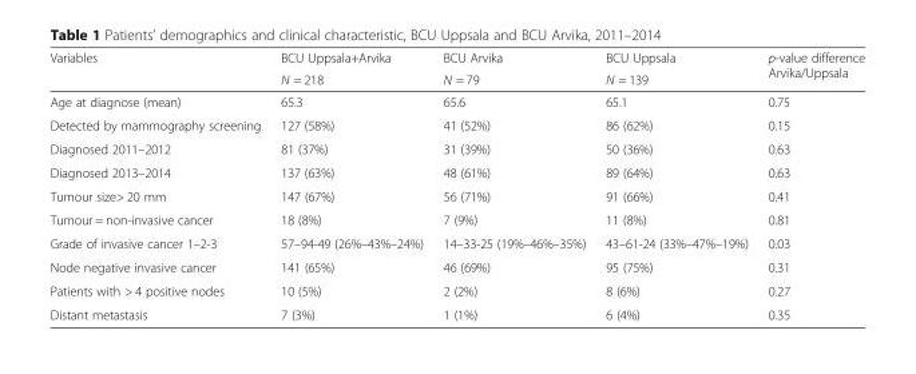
<table><thead><tr><td rowspan="2">Variables</td><td rowspan="2">BCU Uppsala+Arvika N = 218</td><td rowspan="2">BCU Arvika N = 79</td><td rowspan="2">BCU Uppsala N = 139</td><td rowspan="2">p-value difference Arvika/Uppsala</td></tr><tr></tr></thead><tbody><tr><td>Age at diagnose (mean)</td><td>65.3</td><td>65.6</td><td>65.1</td><td>0.75</td></tr><tr><td>Detected by mammography screening</td><td>127 (58%)</td><td>41 (52%)</td><td>86 (62%)</td><td>0.15</td></tr><tr><td>Diagnosed 2011–2012</td><td>81 (37%)</td><td>31 (39%)</td><td>50 (36%)</td><td>0.63</td></tr><tr><td>Diagnosed 2013–2014</td><td>137 (63%)</td><td>48 (61%)</td><td>89 (64%)</td><td>0.63</td></tr><tr><td>Tumour size&gt; 20 mm</td><td>147 (67%)</td><td>56 (71%)</td><td>91 (66%)</td><td>0.41</td></tr><tr><td>Tumour = non-invasive cancer</td><td>18 (8%)</td><td>7 (9%)</td><td>11 (8%)</td><td>0.81</td></tr><tr><td>Grade of invasive cancer 1–2-3</td><td>57–94-49 (26%–43%–24%)</td><td>14–33-25 (19%–46%–35%)</td><td>43–61-24 (33%–47%–19%)</td><td>0.03</td></tr><tr><td>Node negative invasive cancer</td><td>141 (65%)</td><td>46 (69%)</td><td>95 (75%)</td><td>0.31</td></tr><tr><td>Patients with &gt; 4 positive nodes</td><td>10 (5%)</td><td>2 (2%)</td><td>8 (6%)</td><td>0.27</td></tr><tr><td>Distant metastasis</td><td>7 (3%)</td><td>1 (1%)</td><td>6 (4%)</td><td>0.35</td></tr></tbody></table>